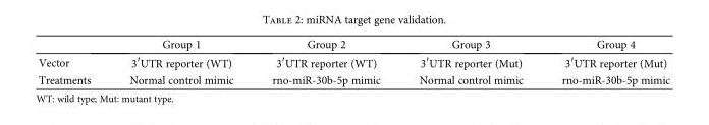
<table><thead><tr><td></td><td>Group 1</td><td>Group 2</td><td>Group 3</td><td>Group 4</td></tr></thead><tbody><tr><td>Vector</td><td>3′UTR reporter (WT)</td><td>3′UTR reporter (WT)</td><td>3′UTR reporter (Mut)</td><td>3′UTR reporter (Mut)</td></tr><tr><td>Treatments</td><td>Normal control mimic</td><td>rno-miR-30b-5p mimic</td><td>Normal control mimic</td><td>rno-miR-30b-5p mimic</td></tr></tbody></table>